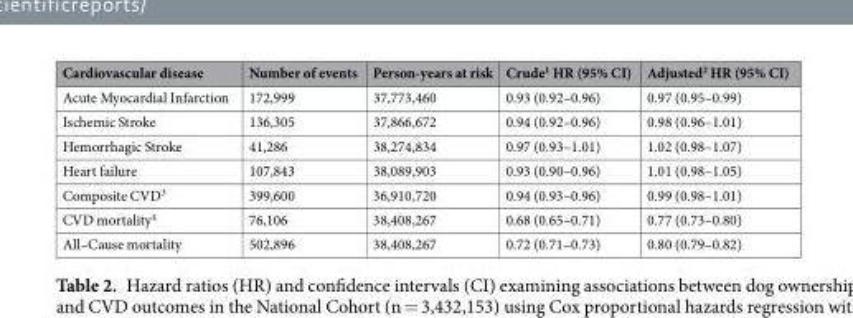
<table><thead><tr><td>Cardiovascular disease</td><td>Number of events</td><td>Person-years at risk</td><td>Crude<sup>1</sup> HR (95% CI)</td><td>Adjusted<sup>2</sup> HR (95% CI)</td></tr></thead><tbody><tr><td>Acute Myocardial Infarction</td><td>172,999</td><td>37,773,460</td><td>0.93 (0.92–0.96)</td><td>0.97 (0.95–0.99)</td></tr><tr><td>Ischemic Stroke</td><td>136,305</td><td>37,866,672</td><td>0.94 (0.92–0.96)</td><td>0.98 (0.96–1.01)</td></tr><tr><td>Hemorrhagic Stroke</td><td>41,286</td><td>38,274,834</td><td>0.97 (0.93–1.01)</td><td>1.02 (0.98–1.07)</td></tr><tr><td>Heart failure</td><td>107,843</td><td>38,089,903</td><td>0.93 (0.90–0.96)</td><td>1.01 (0.98–1.05)</td></tr><tr><td>Composite CVD<sup>3</sup></td><td>399,600</td><td>36,910,720</td><td>0.94 (0.93–0.96)</td><td>0.99 (0.98–1.01)</td></tr><tr><td>CVD mortality<sup>4</sup></td><td>76,106</td><td>38,408,267</td><td>0.68 (0.65–0.71)</td><td>0.77 (0.73–0.80)</td></tr><tr><td>All–Cause mortality</td><td>502,896</td><td>38,408,267</td><td>0.72 (0.71–0.73)</td><td>0.80 (0.79–0.82)</td></tr></tbody></table>